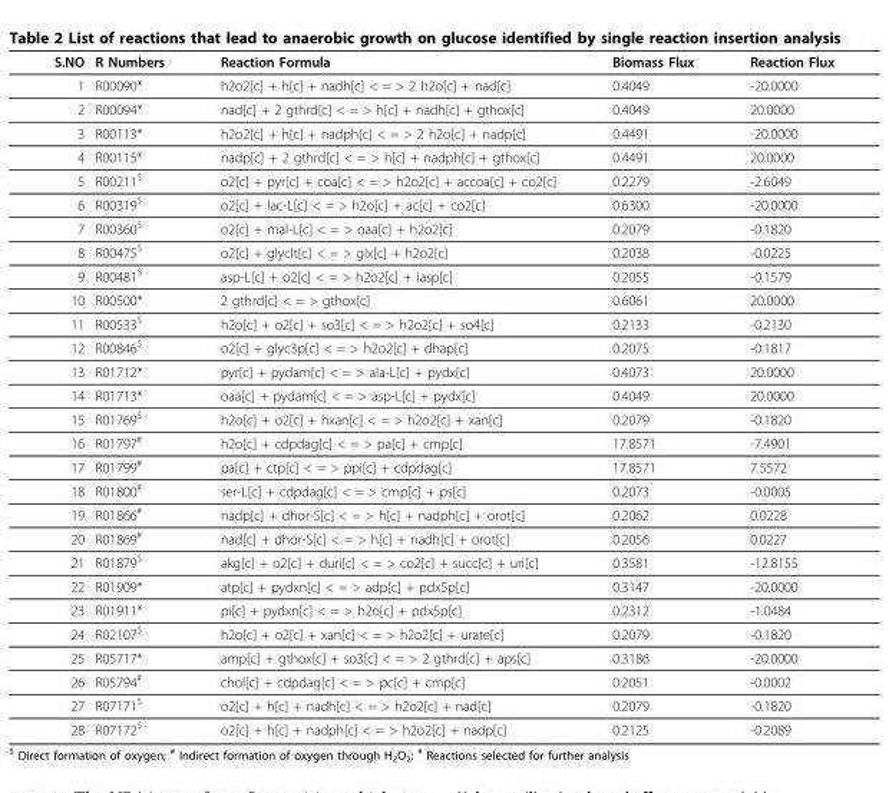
<table><thead><tr><td>S.NO</td><td>R Numbers</td><td>Reaction Formula</td><td>Biomass Flux</td><td>Reaction Flux</td></tr></thead><tbody><tr><td>1</td><td>R00090*</td><td>h2o2[c] + h[c] + nadh[c] &lt; = &gt; 2 h2o[c] + nad[c]</td><td>0.4049</td><td>-20.0000</td></tr><tr><td>2</td><td>R00094*</td><td>nad[c] + 2 gthrd[c] &lt; = &gt; h[c] + nadh[c] + gthox[c]</td><td>0.4049</td><td>20.0000</td></tr><tr><td>3</td><td>R00113*</td><td>h2o2[c] + h[c] + nadph[c] &lt; = &gt; 2 h2o[c] + nadp[c]</td><td>0.4491</td><td>-20.0000</td></tr><tr><td>4</td><td>R00115*</td><td>nadp[c] + 2 gthrd[c] &lt; = &gt; h[c] + nadph[c] + gthox[c]</td><td>0.4491</td><td>20.0000</td></tr><tr><td>5</td><td>R00211<sup>$</sup></td><td>o2[c] + pyr[c] + coa[c] &lt; = &gt; h2o2[c] + accoa[c] + co2[c]</td><td>0.2279</td><td>-2.6049</td></tr><tr><td>6</td><td>R00319<sup>$</sup></td><td>o2[c] + lac-L[c] &lt; = &gt; h2o[c] + ac[c] + co2[c]</td><td>0.6300</td><td>-20.0000</td></tr><tr><td>7</td><td>R00360<sup>$</sup></td><td>o2[c] + mal-L[c] &lt; = &gt; oaa[c] + h2o2[c]</td><td>0.2079</td><td>-0.1820</td></tr><tr><td>8</td><td>R00475<sup>$</sup></td><td>o2[c] + glyclt[c] &lt; = &gt; glx[c] + h2o2[c]</td><td>0.2038</td><td>-0.0225</td></tr><tr><td>9</td><td>R00481<sup>$</sup></td><td>asp-L[c] + o2[c] &lt; = &gt; h2o2[c] + iasp[c]</td><td>0.2055</td><td>-0.1579</td></tr><tr><td>10</td><td>R00500*</td><td>2 gthrd[c] &lt; = &gt; gthox[c]</td><td>0.6061</td><td>20.0000</td></tr><tr><td>11</td><td>R00533<sup>$</sup></td><td>h2o[c] + o2[c] + so3[c] &lt; = &gt; h2o2[c] + so4[c]</td><td>0.2133</td><td>-0.2130</td></tr><tr><td>12</td><td>R00846<sup>$</sup></td><td>o2[c] + glyc3p[c] &lt; = &gt; h2o2[c] + dhap[c]</td><td>0.2075</td><td>-0.1817</td></tr><tr><td>13</td><td>R01712*</td><td>pyr[c] + pydam[c] &lt; = &gt; ala-L[c] + pydx[c]</td><td>0.4073</td><td>20.0000</td></tr><tr><td>14</td><td>R01713*</td><td>oaa[c] + pydam[c] &lt; = &gt; asp-L[c] + pydx[c]</td><td>0.4049</td><td>20.0000</td></tr><tr><td>15</td><td>R01769<sup>$</sup></td><td>h2o[c] + o2[c] + hxan[c] &lt; = &gt; h2o2[c] + xan[c]</td><td>0.2079</td><td>-0.1820</td></tr><tr><td>16</td><td>R01797<sup>#</sup></td><td>h2o[c] + cdpdag[c] &lt; = &gt; pa[c] + cmp[c]</td><td>17.8571</td><td>-7.4901</td></tr><tr><td>17</td><td>R01799<sup>#</sup></td><td>pa[c] + ctp[c] &lt; = &gt; ppi[c] + cdpdag[c]</td><td>17.8571</td><td>7.5572</td></tr><tr><td>18</td><td>R01800<sup>#</sup></td><td>ser-L[c] + cdpdag[c] &lt; = &gt; cmp[c] + ps[c]</td><td>0.2073</td><td>-0.0005</td></tr><tr><td>19</td><td>R01866<sup>#</sup></td><td>nadp[c] + dhor-S[c] &lt; = &gt; h[c] + nadph[c] + orot[c]</td><td>0.2062</td><td>0.0228</td></tr><tr><td>20</td><td>R01869<sup>#</sup></td><td>nad[c] + dhor-S[c] &lt; = &gt; h[c] + nadh[c] + orot[c]</td><td>0.2056</td><td>0.0227</td></tr><tr><td>21</td><td>R01879<sup>$</sup></td><td>akg[c] + o2[c] + duri[c] &lt; = &gt; co2[c] + succ[c] + uri[c]</td><td>0.3581</td><td>-12.8155</td></tr><tr><td>22</td><td>R01909*</td><td>atp[c] + pydxn[c] &lt; = &gt; adp[c] + pdx5p[c]</td><td>0.3147</td><td>-20.0000</td></tr><tr><td>23</td><td>R01911*</td><td>pi[c] + pydxn[c] &lt; = &gt; h2o[c] + pdx5p[c]</td><td>0.2312</td><td>-1.0484</td></tr><tr><td>24</td><td>R02107<sup>$</sup></td><td>h2o[c] + o2[c] + xan[c] &lt; = &gt; h2o2[c] + urate[c]</td><td>0.2079</td><td>-0.1820</td></tr><tr><td>25</td><td>R05717*</td><td>amp[c] + gthox[c] + so3[c] &lt; = &gt; 2 gthrd[c] + aps[c]</td><td>0.3186</td><td>-20.0000</td></tr><tr><td>26</td><td>R05794<sup>#</sup></td><td>chol[c] + cdpdag[c] &lt; = &gt; pc[c] + cmp[c]</td><td>0.2051</td><td>-0.0002</td></tr><tr><td>27</td><td>R07171<sup>$</sup></td><td>o2[c] + h[c] + nadh[c] &lt; = &gt; h2o2[c] + nad[c]</td><td>0.2079</td><td>-0.1820</td></tr><tr><td>28</td><td>R07172<sup>$</sup></td><td>o2[c] + h[c] + nadph[c] &lt; = &gt; h2o2[c] + nadp[c]</td><td>0.2125</td><td>-0.2089</td></tr></tbody></table>